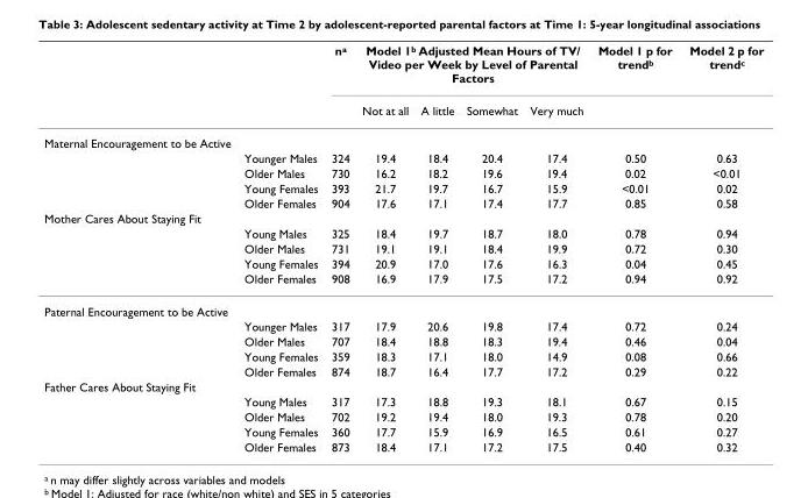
<table><thead><tr><td rowspan="2"></td><td rowspan="2"></td><td rowspan="2">n<sup>a</sup></td><td colspan="4">Model 1<sup>b</sup> Adjusted Mean Hours of TV/ Video per Week by Level of Parental Factors</td><td rowspan="2">Model 1 p for trend<sup>b</sup></td><td rowspan="2">Model 2 p for trend<sup>c</sup></td></tr><tr><td>Not at all</td><td>A little</td><td>Somewhat</td><td>Very much</td></tr></thead><tbody><tr><td colspan="9">Maternal Encouragement to be Active</td></tr><tr><td></td><td>Younger Males</td><td>324</td><td>19.4</td><td>18.4</td><td>20.4</td><td>17.4</td><td>0.50</td><td>0.63</td></tr><tr><td></td><td>Older Males</td><td>730</td><td>16.2</td><td>18.2</td><td>19.6</td><td>19.4</td><td>0.02</td><td>&lt;0.01</td></tr><tr><td></td><td>Young Females</td><td>393</td><td>21.7</td><td>19.7</td><td>16.7</td><td>15.9</td><td>&lt;0.01</td><td>0.02</td></tr><tr><td></td><td>Older Females</td><td>904</td><td>17.6</td><td>17.1</td><td>17.4</td><td>17.7</td><td>0.85</td><td>0.58</td></tr><tr><td colspan="9">Mother Cares About Staying Fit</td></tr><tr><td></td><td>Young Males</td><td>325</td><td>18.4</td><td>19.7</td><td>18.7</td><td>18.0</td><td>0.78</td><td>0.94</td></tr><tr><td></td><td>Older Males</td><td>731</td><td>19.1</td><td>19.1</td><td>18.4</td><td>19.9</td><td>0.72</td><td>0.30</td></tr><tr><td></td><td>Young Females</td><td>394</td><td>20.9</td><td>17.0</td><td>17.6</td><td>16.3</td><td>0.04</td><td>0.45</td></tr><tr><td></td><td>Older Females</td><td>908</td><td>16.9</td><td>17.9</td><td>17.5</td><td>17.2</td><td>0.94</td><td>0.92</td></tr><tr><td colspan="9">Paternal Encouragement to be Active</td></tr><tr><td></td><td>Younger Males</td><td>317</td><td>17.9</td><td>20.6</td><td>19.8</td><td>17.4</td><td>0.72</td><td>0.24</td></tr><tr><td></td><td>Older Males</td><td>707</td><td>18.4</td><td>18.8</td><td>18.3</td><td>19.4</td><td>0.46</td><td>0.04</td></tr><tr><td></td><td>Young Females</td><td>359</td><td>18.3</td><td>17.1</td><td>18.0</td><td>14.9</td><td>0.08</td><td>0.66</td></tr><tr><td></td><td>Older Females</td><td>874</td><td>18.7</td><td>16.4</td><td>17.7</td><td>17.2</td><td>0.29</td><td>0.22</td></tr><tr><td colspan="9">Father Cares About Staying Fit</td></tr><tr><td></td><td>Young Males</td><td>317</td><td>17.3</td><td>18.8</td><td>19.3</td><td>18.1</td><td>0.67</td><td>0.15</td></tr><tr><td></td><td>Older Males</td><td>702</td><td>19.2</td><td>19.4</td><td>18.0</td><td>19.3</td><td>0.78</td><td>0.20</td></tr><tr><td></td><td>Young Females</td><td>360</td><td>17.7</td><td>15.9</td><td>16.9</td><td>16.5</td><td>0.61</td><td>0.27</td></tr><tr><td></td><td>Older Females</td><td>873</td><td>18.4</td><td>17.1</td><td>17.2</td><td>17.5</td><td>0.40</td><td>0.32</td></tr></tbody></table>